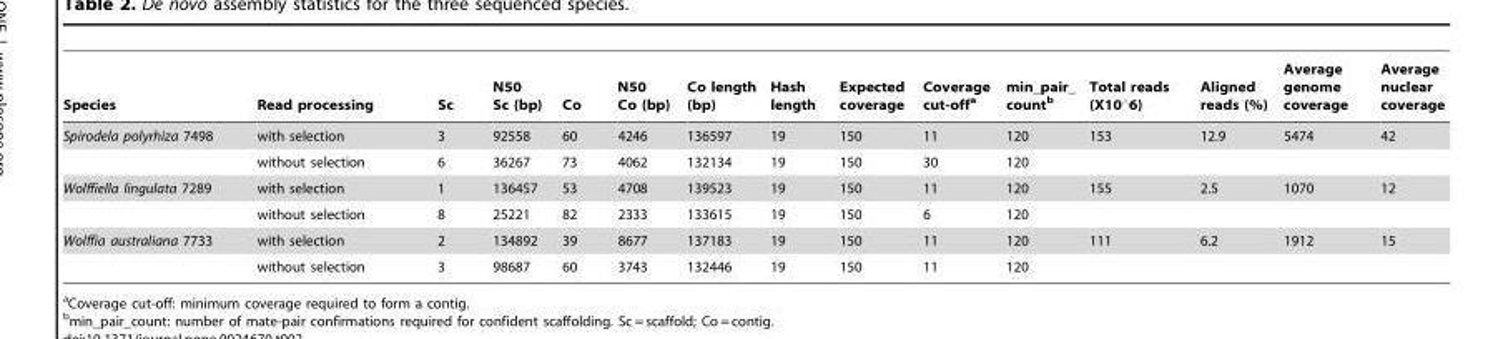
<table><thead><tr><td>Species</td><td>Read processing</td><td>Sc</td><td>N50 Sc (bp)</td><td>Co</td><td>N50 Co (bp)</td><td>Co length (bp)</td><td>Hash length</td><td>Expected coverage</td><td>Coverage cut-off<sup>a</sup></td><td>min_pair_ count<sup>b</sup></td><td>Total reads (X10‘6)</td><td>Aligned reads (%)</td><td>Average genome coverage</td><td>Average nuclear coverage</td></tr></thead><tbody><tr><td rowspan="2">Spirodela polyrhiza 7498</td><td>with selection</td><td>3</td><td>92558</td><td>60</td><td>4246</td><td>136597</td><td>19</td><td>150</td><td>11</td><td>120</td><td>153</td><td>12.9</td><td>5474</td><td>42</td></tr><tr><td>without selection</td><td>6</td><td>36267</td><td>73</td><td>4062</td><td>132134</td><td>19</td><td>150</td><td>30</td><td>120</td><td></td><td></td><td></td><td></td></tr><tr><td rowspan="2">Wolffiella lingulata 7289</td><td>with selection</td><td>1</td><td>136457</td><td>53</td><td>4708</td><td>139523</td><td>19</td><td>150</td><td>11</td><td>120</td><td>155</td><td>2.5</td><td>1070</td><td>12</td></tr><tr><td>without selection</td><td>8</td><td>25221</td><td>82</td><td>2333</td><td>133615</td><td>19</td><td>150</td><td>6</td><td>120</td><td></td><td></td><td></td><td></td></tr><tr><td rowspan="2">Wolffia australiana 7733</td><td>with selection</td><td>2</td><td>134892</td><td>39</td><td>8677</td><td>137183</td><td>19</td><td>150</td><td>11</td><td>120</td><td>111</td><td>6.2</td><td>1912</td><td>15</td></tr><tr><td>without selection</td><td>3</td><td>98687</td><td>60</td><td>3743</td><td>132446</td><td>19</td><td>150</td><td>11</td><td>120</td><td></td><td></td><td></td><td></td></tr></tbody></table>